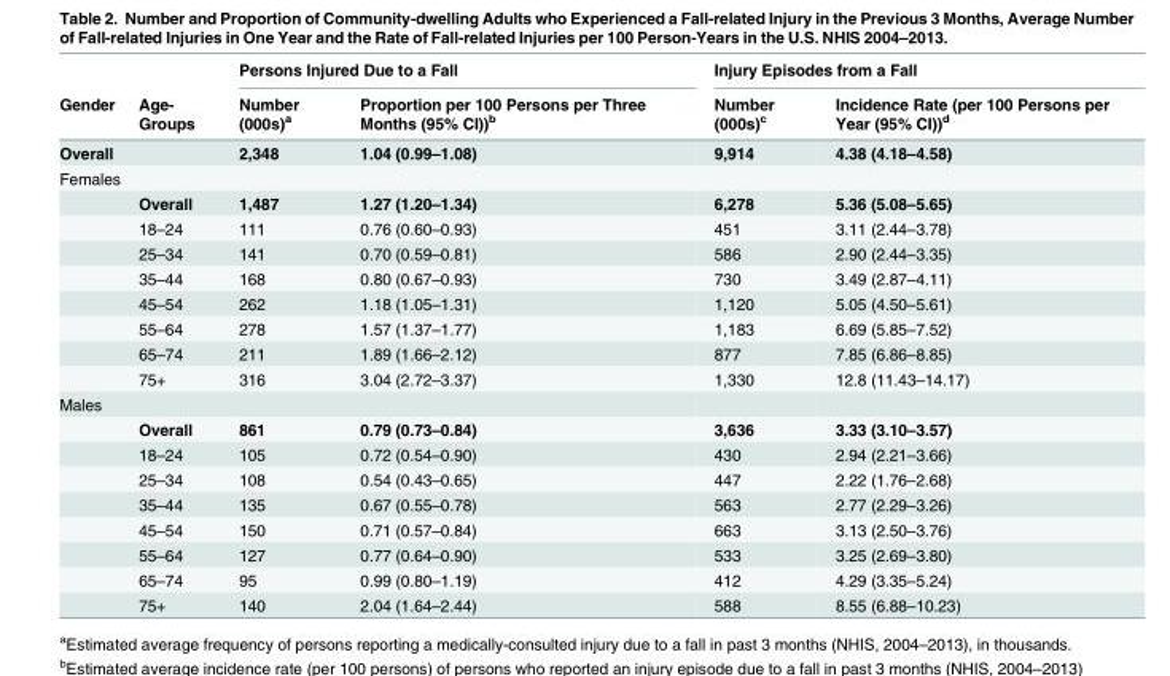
<table><thead><tr><td rowspan="2">Gender</td><td rowspan="2">Age- Groups</td><td colspan="2">Persons Injured Due to a Fall</td><td colspan="2">Injury Episodes from a Fall</td></tr><tr><td>Number (000s)<sup>a</sup></td><td>Proportion per 100 Persons per Three Months (95% CI))<sup>b</sup></td><td>Number (000s)<sup>c</sup></td><td>Incidence Rate (per 100 Persons per Year (95% CI))<sup>d</sup></td></tr></thead><tbody><tr><td>Overall</td><td></td><td>2,348</td><td>1.04 (0.99–1.08)</td><td>9,914</td><td>4.38 (4.18–4.58)</td></tr><tr><td colspan="6">Females</td></tr><tr><td></td><td>Overall</td><td>1,487</td><td>1.27 (1.20–1.34)</td><td>6,278</td><td>5.36 (5.08–5.65)</td></tr><tr><td></td><td>18–24</td><td>111</td><td>0.76 (0.60–0.93)</td><td>451</td><td>3.11 (2.44–3.78)</td></tr><tr><td></td><td>25–34</td><td>141</td><td>0.70 (0.59–0.81)</td><td>586</td><td>2.90 (2.44–3.35)</td></tr><tr><td></td><td>35–44</td><td>168</td><td>0.80 (0.67–0.93)</td><td>730</td><td>3.49 (2.87–4.11)</td></tr><tr><td></td><td>45–54</td><td>262</td><td>1.18 (1.05–1.31)</td><td>1,120</td><td>5.05 (4.50–5.61)</td></tr><tr><td></td><td>55–64</td><td>278</td><td>1.57 (1.37–1.77)</td><td>1,183</td><td>6.69 (5.85–7.52)</td></tr><tr><td></td><td>65–74</td><td>211</td><td>1.89 (1.66–2.12)</td><td>877</td><td>7.85 (6.86–8.85)</td></tr><tr><td></td><td>75+</td><td>316</td><td>3.04 (2.72–3.37)</td><td>1,330</td><td>12.8 (11.43–14.17)</td></tr><tr><td colspan="6">Males</td></tr><tr><td></td><td>Overall</td><td>861</td><td>0.79 (0.73–0.84)</td><td>3,636</td><td>3.33 (3.10–3.57)</td></tr><tr><td></td><td>18–24</td><td>105</td><td>0.72 (0.54–0.90)</td><td>430</td><td>2.94 (2.21–3.66)</td></tr><tr><td></td><td>25–34</td><td>108</td><td>0.54 (0.43–0.65)</td><td>447</td><td>2.22 (1.76–2.68)</td></tr><tr><td></td><td>35–44</td><td>135</td><td>0.67 (0.55–0.78)</td><td>563</td><td>2.77 (2.29–3.26)</td></tr><tr><td></td><td>45–54</td><td>150</td><td>0.71 (0.57–0.84)</td><td>663</td><td>3.13 (2.50–3.76)</td></tr><tr><td></td><td>55–64</td><td>127</td><td>0.77 (0.64–0.90)</td><td>533</td><td>3.25 (2.69–3.80)</td></tr><tr><td></td><td>65–74</td><td>95</td><td>0.99 (0.80–1.19)</td><td>412</td><td>4.29 (3.35–5.24)</td></tr><tr><td></td><td>75+</td><td>140</td><td>2.04 (1.64–2.44)</td><td>588</td><td>8.55 (6.88–10.23)</td></tr></tbody></table>